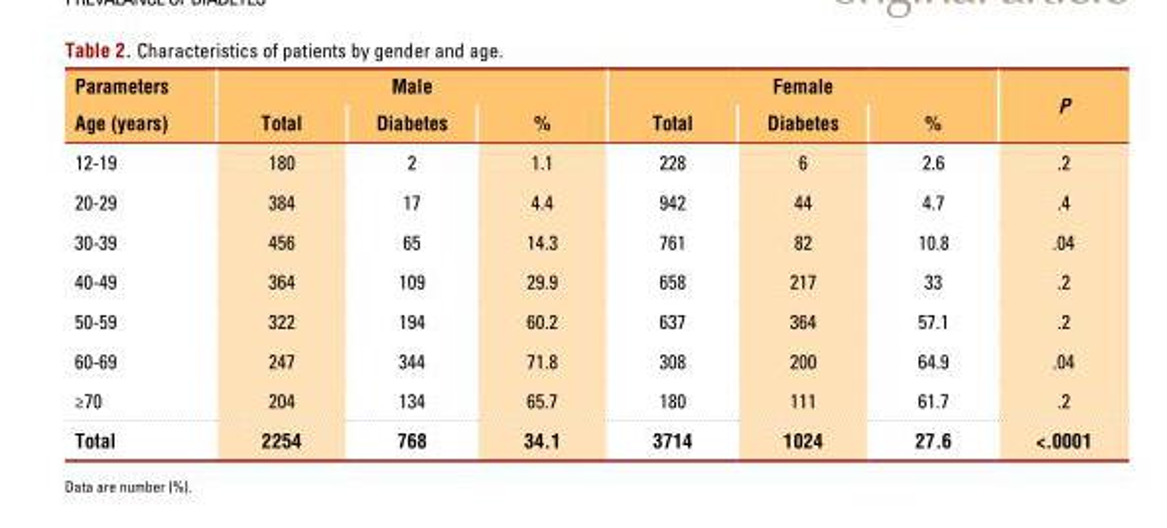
<table><thead><tr><td rowspan="2">Parameters Age (years)</td><td colspan="3">Male</td><td colspan="3">Female</td><td rowspan="2">P</td></tr><tr><td>Total</td><td>Diabetes</td><td>%</td><td>Total</td><td>Diabetes</td><td>%</td></tr></thead><tbody><tr><td>12-19</td><td>180</td><td>2</td><td>1.1</td><td>228</td><td>6</td><td>2.6</td><td>.2</td></tr><tr><td>20-29</td><td>384</td><td>17</td><td>4.4</td><td>942</td><td>44</td><td>4.7</td><td>.4</td></tr><tr><td>30-39</td><td>456</td><td>65</td><td>14.3</td><td>761</td><td>82</td><td>10.8</td><td>.04</td></tr><tr><td>40-49</td><td>364</td><td>109</td><td>29.9</td><td>658</td><td>217</td><td>33</td><td>.2</td></tr><tr><td>50-59</td><td>322</td><td>194</td><td>60.2</td><td>637</td><td>364</td><td>57.1</td><td>.2</td></tr><tr><td>60-69</td><td>247</td><td>344</td><td>71.8</td><td>308</td><td>200</td><td>64.9</td><td>.04</td></tr><tr><td>≥70</td><td>204</td><td>134</td><td>65.7</td><td>180</td><td>111</td><td>61.7</td><td>.2</td></tr><tr><td>Total</td><td>2254</td><td>768</td><td>34.1</td><td>3714</td><td>1024</td><td>27.6</td><td>&lt;.0001</td></tr></tbody></table>